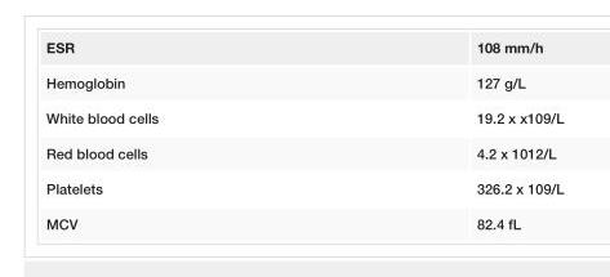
<table><tbody><tr><td>ESR</td><td>108 mm/h</td></tr><tr><td>Hemoglobin</td><td>127 g/L</td></tr><tr><td>White blood cells</td><td>19.2 x x109/L</td></tr><tr><td>Red blood cells</td><td>4.2 x 1012/L</td></tr><tr><td>Platelets</td><td>326.2 x 109/L</td></tr><tr><td>MCV</td><td>82.4 fL</td></tr></tbody></table>